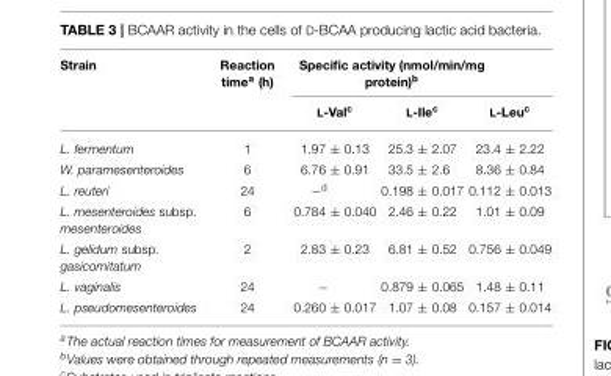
<table><thead><tr><td rowspan="2">Strain</td><td rowspan="2">Reaction time<sup>a</sup> (h)</td><td colspan="3">Specific activity (nmol/min/mg protein)<sup>b</sup></td></tr><tr><td>L-Val<sup>c</sup></td><td>L-Ile<sup>c</sup></td><td>L-Leu<sup>c</sup></td></tr></thead><tbody><tr><td>L. fermentum</td><td>1</td><td>1.97 ± 0.13</td><td>25.3 ± 2.07</td><td>23.4 ± 2.22</td></tr><tr><td>W. paramesenteroides</td><td>6</td><td>6.76 ± 0.91</td><td>33.5 ± 2.6</td><td>8.36 ± 0.84</td></tr><tr><td>L. reuteri</td><td>24</td><td>−<sup>d</sup></td><td>0.198 ± 0.017</td><td>0.112 ± 0.013</td></tr><tr><td>L. mesenteroides subsp. mesenteroides</td><td>6</td><td>0.784 ± 0.040</td><td>2.46 ± 0.22</td><td>1.01 ± 0.09</td></tr><tr><td>L. gelidum subsp. gasicomitatum</td><td>2</td><td>2.83 ± 0.23</td><td>6.81 ± 0.52</td><td>0.756 ± 0.049</td></tr><tr><td>L. vaginalis</td><td>24</td><td>−</td><td>0.879 ± 0.065</td><td>1.48 ± 0.11</td></tr><tr><td>L. pseudomesenteroides</td><td>24</td><td>0.260 ± 0.017</td><td>1.07 ± 0.08</td><td>0.157 ± 0.014</td></tr></tbody></table>